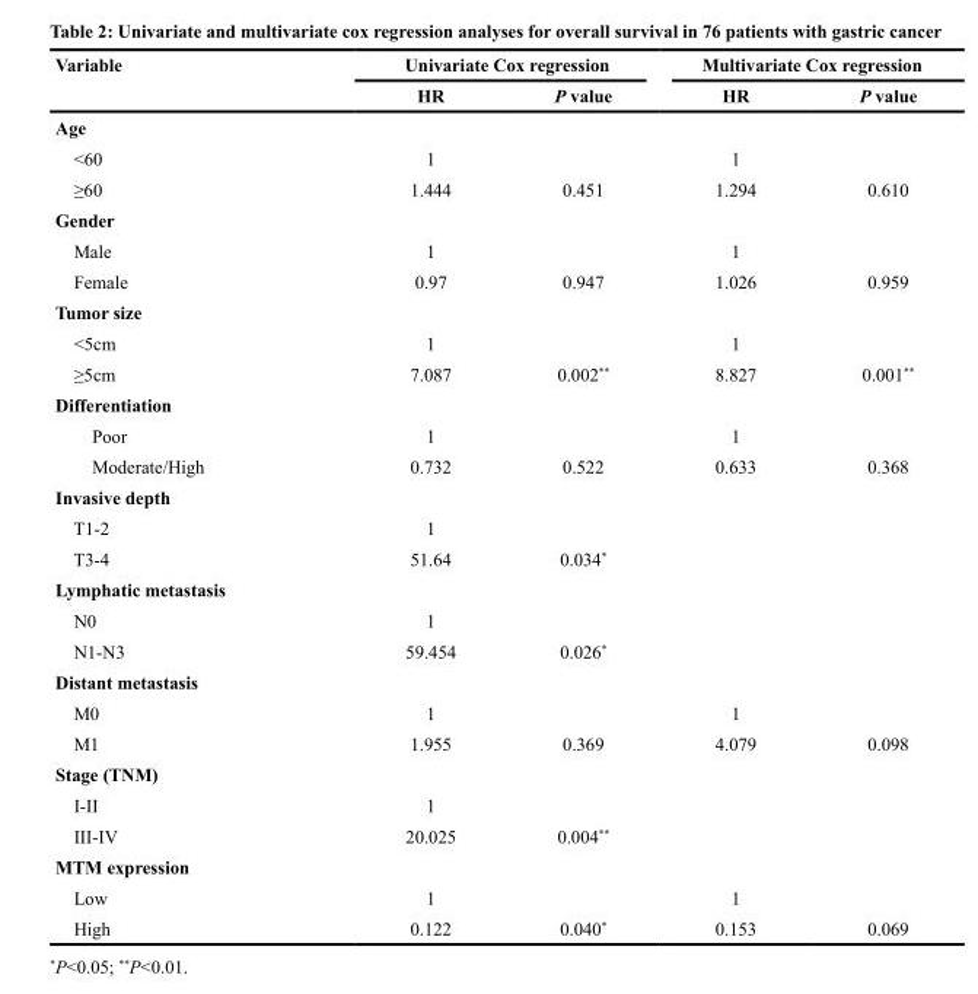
<table><thead><tr><td rowspan="2">Variable</td><td colspan="2">Univariate Cox regression</td><td colspan="2">Multivariate Cox regression</td></tr><tr><td>HR</td><td>P value</td><td>HR</td><td>P value</td></tr></thead><tbody><tr><td colspan="5">Age</td></tr><tr><td>&lt;60</td><td>1</td><td></td><td>1</td><td></td></tr><tr><td>≥60</td><td>1.444</td><td>0.451</td><td>1.294</td><td>0.610</td></tr><tr><td colspan="5">Gender</td></tr><tr><td>Male</td><td>1</td><td></td><td>1</td><td></td></tr><tr><td>Female</td><td>0.97</td><td>0.947</td><td>1.026</td><td>0.959</td></tr><tr><td colspan="5">Tumor size</td></tr><tr><td>&lt;5cm</td><td>1</td><td></td><td>1</td><td></td></tr><tr><td>≥5cm</td><td>7.087</td><td>0.002**</td><td>8.827</td><td>0.001**</td></tr><tr><td colspan="5">Differentiation</td></tr><tr><td>Poor</td><td>1</td><td></td><td>1</td><td></td></tr><tr><td>Moderate/High</td><td>0.732</td><td>0.522</td><td>0.633</td><td>0.368</td></tr><tr><td colspan="5">Invasive depth</td></tr><tr><td>T1-2</td><td>1</td><td></td><td></td><td></td></tr><tr><td>T3-4</td><td>51.64</td><td>0.034*</td><td></td><td></td></tr><tr><td colspan="5">Lymphatic metastasis</td></tr><tr><td>N0</td><td>1</td><td></td><td></td><td></td></tr><tr><td>N1-N3</td><td>59.454</td><td>0.026*</td><td></td><td></td></tr><tr><td colspan="5">Distant metastasis</td></tr><tr><td>M0</td><td>1</td><td></td><td>1</td><td></td></tr><tr><td>M1</td><td>1.955</td><td>0.369</td><td>4.079</td><td>0.098</td></tr><tr><td colspan="5">Stage (TNM)</td></tr><tr><td>I-II</td><td>1</td><td></td><td></td><td></td></tr><tr><td>III-IV</td><td>20.025</td><td>0.004**</td><td></td><td></td></tr><tr><td colspan="5">MTM expression</td></tr><tr><td>Low</td><td>1</td><td></td><td>1</td><td></td></tr><tr><td>High</td><td>0.122</td><td>0.040*</td><td>0.153</td><td>0.069</td></tr></tbody></table>